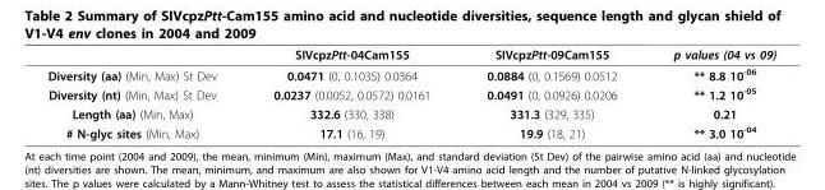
<table><thead><tr><td></td><td>SIVcpzPtt-04Cam155</td><td>SIVcpzPtt-09Cam155</td><td>p values (04 vs 09)</td></tr></thead><tbody><tr><td>Diversity (aa) (Min, Max) St Dev</td><td>0.0471 (0, 0.1035) 0.0364</td><td>0.0884 (0, 0.1569) 0.0512</td><td>** 8.8 10<sup>-06</sup></td></tr><tr><td>Diversity (nt) (Min, Max) St Dev</td><td>0.0237 (0.0052, 0.0572) 0.0161</td><td>0.0491 (0, 0.0926) 0.0206</td><td>** 1.2 10<sup>-05</sup></td></tr><tr><td>Length (aa) (Min, Max)</td><td>332.6 (330, 338)</td><td>331.3 (329, 335)</td><td>0.21</td></tr><tr><td># N-glyc sites (Min, Max)</td><td>17.1 (16, 19)</td><td>19.9 (18, 21)</td><td>** 3.0 10<sup>-04</sup></td></tr></tbody></table>